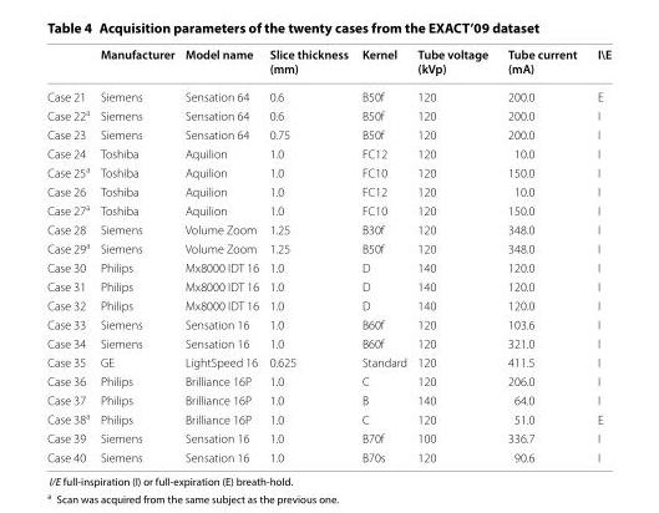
<table><thead><tr><td></td><td>Manufacturer</td><td>Model name</td><td>Slice thickness (mm)</td><td>Kernel</td><td>Tube voltage (kVp)</td><td>Tube current (mA)</td><td>I\E</td></tr></thead><tbody><tr><td>Case 21</td><td>Siemens</td><td>Sensation 64</td><td>0.6</td><td>B50f</td><td>120</td><td>200.0</td><td>E</td></tr><tr><td>Case 22<sup>a</sup></td><td>Siemens</td><td>Sensation 64</td><td>0.6</td><td>B50f</td><td>120</td><td>200.0</td><td>I</td></tr><tr><td>Case 23</td><td>Siemens</td><td>Sensation 64</td><td>0.75</td><td>B50f</td><td>120</td><td>200.0</td><td>I</td></tr><tr><td>Case 24</td><td>Toshiba</td><td>Aquilion</td><td>1.0</td><td>FC12</td><td>120</td><td>10.0</td><td>I</td></tr><tr><td>Case 25<sup>a</sup></td><td>Toshiba</td><td>Aquilion</td><td>1.0</td><td>FC10</td><td>120</td><td>150.0</td><td>I</td></tr><tr><td>Case 26</td><td>Toshiba</td><td>Aquilion</td><td>1.0</td><td>FC12</td><td>120</td><td>10.0</td><td>I</td></tr><tr><td>Case 27<sup>a</sup></td><td>Toshiba</td><td>Aquilion</td><td>1.0</td><td>FC10</td><td>120</td><td>150.0</td><td>I</td></tr><tr><td>Case 28</td><td>Siemens</td><td>Volume Zoom</td><td>1.25</td><td>B30f</td><td>120</td><td>348.0</td><td>I</td></tr><tr><td>Case 29<sup>a</sup></td><td>Siemens</td><td>Volume Zoom</td><td>1.25</td><td>B50f</td><td>120</td><td>348.0</td><td>I</td></tr><tr><td>Case 30</td><td>Philips</td><td>Mx8000 IDT 16</td><td>1.0</td><td>D</td><td>140</td><td>120.0</td><td>I</td></tr><tr><td>Case 31</td><td>Philips</td><td>Mx8000 IDT 16</td><td>1.0</td><td>D</td><td>140</td><td>120.0</td><td>I</td></tr><tr><td>Case 32</td><td>Philips</td><td>Mx8000 IDT 16</td><td>1.0</td><td>D</td><td>140</td><td>120.0</td><td>I</td></tr><tr><td>Case 33</td><td>Siemens</td><td>Sensation 16</td><td>1.0</td><td>B60f</td><td>120</td><td>103.6</td><td>I</td></tr><tr><td>Case 34</td><td>Siemens</td><td>Sensation 16</td><td>1.0</td><td>B60f</td><td>120</td><td>321.0</td><td>I</td></tr><tr><td>Case 35</td><td>GE</td><td>LightSpeed 16</td><td>0.625</td><td>Standard</td><td>120</td><td>411.5</td><td>I</td></tr><tr><td>Case 36</td><td>Philips</td><td>Brilliance 16P</td><td>1.0</td><td>C</td><td>120</td><td>206.0</td><td>I</td></tr><tr><td>Case 37</td><td>Philips</td><td>Brilliance 16P</td><td>1.0</td><td>B</td><td>140</td><td>64.0</td><td>I</td></tr><tr><td>Case 38<sup>a</sup></td><td>Philips</td><td>Brilliance 16P</td><td>1.0</td><td>C</td><td>120</td><td>51.0</td><td>E</td></tr><tr><td>Case 39</td><td>Siemens</td><td>Sensation 16</td><td>1.0</td><td>B70f</td><td>100</td><td>336.7</td><td>I</td></tr><tr><td>Case 40</td><td>Siemens</td><td>Sensation 16</td><td>1.0</td><td>B70s</td><td>120</td><td>90.6</td><td>I</td></tr></tbody></table>